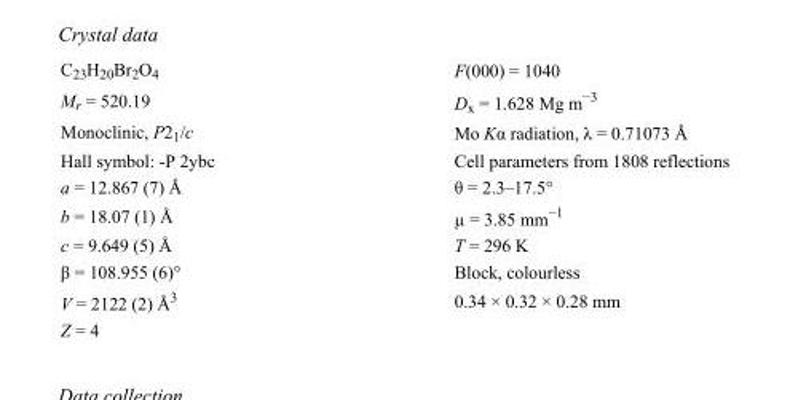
<table><tbody><tr><td>C<sub>23</sub>H<sub>20</sub>Br<sub>2</sub>O<sub>4</sub></td><td>F(000) = 1040</td></tr><tr><td>M<sub>r</sub> = 520.19</td><td>D<sub>x</sub> = 1.628 Mg m<sup>−3</sup></td></tr><tr><td>Monoclinic, P2<sub>1</sub>/c</td><td>Mo Kα radiation, λ = 0.71073 Å</td></tr><tr><td>Hall symbol: -P 2ybc</td><td>Cell parameters from 1808 reflections</td></tr><tr><td>a = 12.867 (7) Å</td><td>θ = 2.3–17.5°</td></tr><tr><td>b = 18.07 (1) Å</td><td>µ = 3.85 mm<sup>−1</sup></td></tr><tr><td>c = 9.649 (5) Å</td><td>T = 296 K</td></tr><tr><td>β = 108.955 (6)°</td><td>Block, colourless</td></tr><tr><td>V = 2122 (2) Å<sup>3</sup></td><td>0.34 × 0.32 × 0.28 mm</td></tr><tr><td>Z = 4</td><td></td></tr></tbody></table>